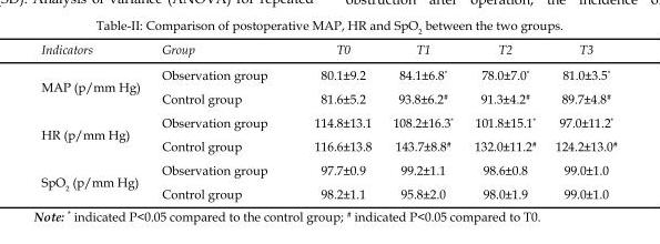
<table><thead><tr><td>Indicators</td><td>Group</td><td>T0</td><td>T1</td><td>T2</td><td>T3</td></tr></thead><tbody><tr><td rowspan="2">MAP (p/mm Hg)</td><td>Observation group</td><td>80.1±9.2</td><td>84.1±6.8*</td><td>78.0±7.0*</td><td>81.0±3.5*</td></tr><tr><td>Control group</td><td>81.6±5.2</td><td>93.8±6.2<sup>#</sup></td><td>91.3±4.2<sup>#</sup></td><td>89.7±4.8<sup>#</sup></td></tr><tr><td rowspan="2">HR (p/mm Hg)</td><td>Observation group</td><td>114.8±13.1</td><td>108.2±16.3*</td><td>101.8±15.1*</td><td>97.0±11.2*</td></tr><tr><td>Control group</td><td>116.6±13.8</td><td>143.7±8.8<sup>#</sup></td><td>132.0±11.2<sup>#</sup></td><td>124.2±13.0<sup>#</sup></td></tr><tr><td rowspan="2">SpO<sub>2</sub> (p/mm Hg)</td><td>Observation group</td><td>97.7±0.9</td><td>99.2±1.1</td><td>98.6±0.8</td><td>99.0±1.0</td></tr><tr><td>Control group</td><td>98.2±1.1</td><td>95.8±2.0</td><td>98.0±1.9</td><td>99.0±1.0</td></tr></tbody></table>